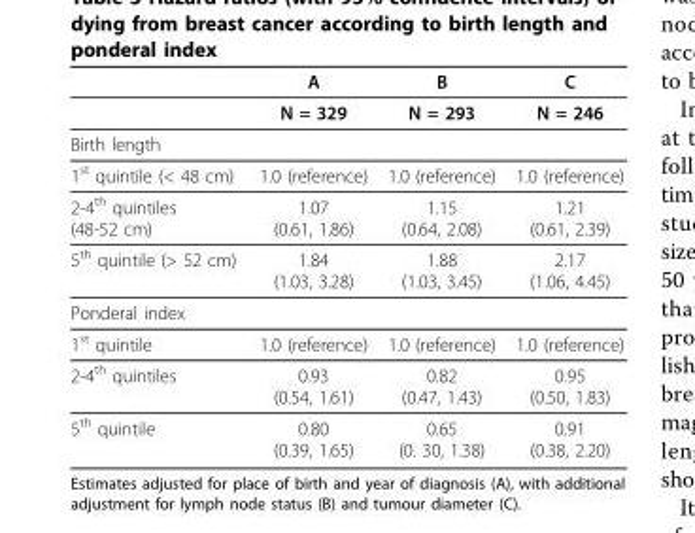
<table><thead><tr><td></td><td>A</td><td>B</td><td>C</td></tr></thead><tbody><tr><td></td><td>N = 329</td><td>N = 293</td><td>N = 246</td></tr><tr><td colspan="4">Birth length</td></tr><tr><td>1<sup>st</sup> quintile (&lt; 48 cm)</td><td>1.0 (reference)</td><td>1.0 (reference)</td><td>1.0 (reference)</td></tr><tr><td>2-4<sup>th</sup> quintiles (48-52 cm)</td><td>1.07 (0.61, 1.86)</td><td>1.15 (0.64, 2.08)</td><td>1.21 (0.61, 2.39)</td></tr><tr><td>5<sup>th</sup> quintile (&gt; 52 cm)</td><td>1.84 (1.03, 3.28)</td><td>1.88 (1.03, 3.45)</td><td>2.17 (1.06, 4.45)</td></tr><tr><td colspan="4">Ponderal index</td></tr><tr><td>1<sup>st</sup> quintile</td><td>1.0 (reference)</td><td>1.0 (reference)</td><td>1.0 (reference)</td></tr><tr><td>2-4<sup>th</sup> quintiles</td><td>0.93 (0.54, 1.61)</td><td>0.82 (0.47, 1.43)</td><td>0.95 (0.50, 1.83)</td></tr><tr><td>5<sup>th</sup> quintile</td><td>0.80 (0.39, 1.65)</td><td>0.65 (0. 30, 1.38)</td><td>0.91 (0.38, 2.20)</td></tr></tbody></table>